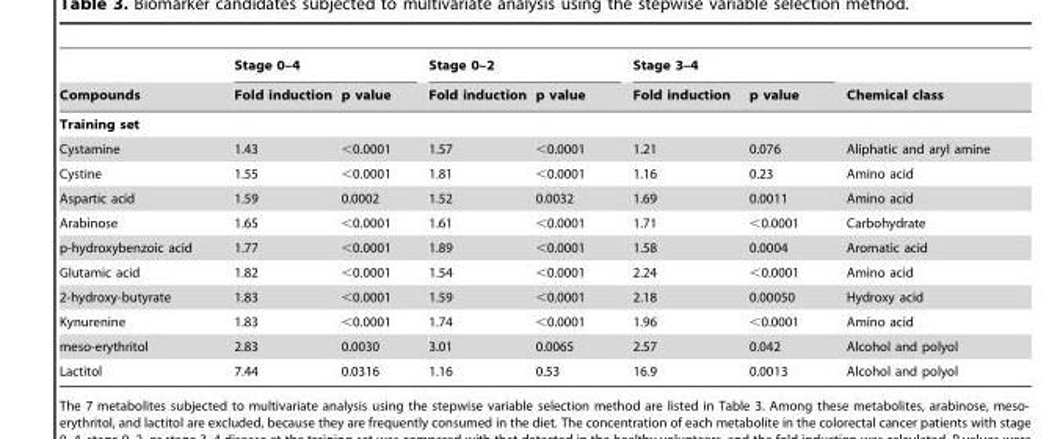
<table><thead><tr><td rowspan="2">Compounds</td><td colspan="2">Stage 0–4</td><td colspan="2">Stage 0–2</td><td colspan="2">Stage 3–4</td><td rowspan="2">Chemical class</td></tr><tr><td>Fold induction</td><td>p value</td><td>Fold induction</td><td>p value</td><td>Fold induction</td><td>p value</td></tr></thead><tbody><tr><td colspan="8">Training set</td></tr><tr><td>Cystamine</td><td>1.43</td><td>&lt;0.0001</td><td>1.57</td><td>&lt;0.0001</td><td>1.21</td><td>0.076</td><td>Aliphatic and aryl amine</td></tr><tr><td>Cystine</td><td>1.55</td><td>&lt;0.0001</td><td>1.81</td><td>&lt;0.0001</td><td>1.16</td><td>0.23</td><td>Amino acid</td></tr><tr><td>Aspartic acid</td><td>1.59</td><td>0.0002</td><td>1.52</td><td>0.0032</td><td>1.69</td><td>0.0011</td><td>Amino acid</td></tr><tr><td>Arabinose</td><td>1.65</td><td>&lt;0.0001</td><td>1.61</td><td>&lt;0.0001</td><td>1.71</td><td>&lt;0.0001</td><td>Carbohydrate</td></tr><tr><td>p-hydroxybenzoic acid</td><td>1.77</td><td>&lt;0.0001</td><td>1.89</td><td>&lt;0.0001</td><td>1.58</td><td>0.0004</td><td>Aromatic acid</td></tr><tr><td>Glutamic acid</td><td>1.82</td><td>&lt;0.0001</td><td>1.54</td><td>&lt;0.0001</td><td>2.24</td><td>&lt;0.0001</td><td>Amino acid</td></tr><tr><td>2-hydroxy-butyrate</td><td>1.83</td><td>&lt;0.0001</td><td>1.59</td><td>&lt;0.0001</td><td>2.18</td><td>0.00050</td><td>Hydroxy acid</td></tr><tr><td>Kynurenine</td><td>1.83</td><td>&lt;0.0001</td><td>1.74</td><td>&lt;0.0001</td><td>1.96</td><td>&lt;0.0001</td><td>Amino acid</td></tr><tr><td>meso-erythritol</td><td>2.83</td><td>0.0030</td><td>3.01</td><td>0.0065</td><td>2.57</td><td>0.042</td><td>Alcohol and polyol</td></tr><tr><td>Lactitol</td><td>7.44</td><td>0.0316</td><td>1.16</td><td>0.53</td><td>16.9</td><td>0.0013</td><td>Alcohol and polyol</td></tr></tbody></table>